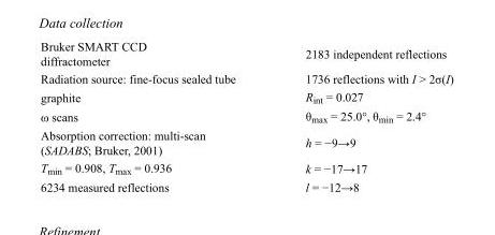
<table><tbody><tr><td>Bruker SMART CCD diffractometer</td><td>2183 independent reflections</td></tr><tr><td>Radiation source: fine-focus sealed tube</td><td>1736 reflections with I &gt; 2σ(I)</td></tr><tr><td>graphite</td><td>R<sub>int</sub> = 0.027</td></tr><tr><td>ω scans</td><td>θ<sub>max</sub> = 25.0°, θ<sub>min</sub> = 2.4°</td></tr><tr><td>Absorption correction: multi-scan (SADABS; Bruker, 2001)</td><td>h = −9→9</td></tr><tr><td>T<sub>min</sub> = 0.908, T<sub>max</sub> = 0.936</td><td>k = −17→17</td></tr><tr><td>6234 measured reflections</td><td>l = −12→8</td></tr></tbody></table>